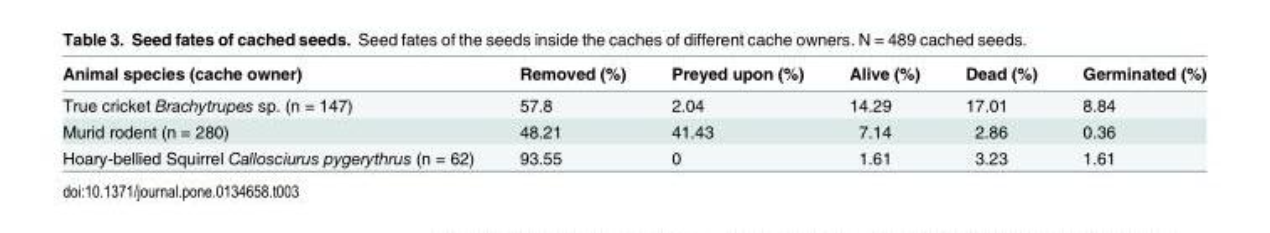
<table><thead><tr><td>Animal species (cache owner)</td><td>Removed (%)</td><td>Preyed upon (%)</td><td>Alive (%)</td><td>Dead (%)</td><td>Germinated (%)</td></tr></thead><tbody><tr><td>True cricket Brachytrupes sp. (n = 147)</td><td>57.8</td><td>2.04</td><td>14.29</td><td>17.01</td><td>8.84</td></tr><tr><td>Murid rodent (n = 280)</td><td>48.21</td><td>41.43</td><td>7.14</td><td>2.86</td><td>0.36</td></tr><tr><td>Hoary-bellied Squirrel Callosciurus pygerythrus (n = 62)</td><td>93.55</td><td>0</td><td>1.61</td><td>3.23</td><td>1.61</td></tr></tbody></table>